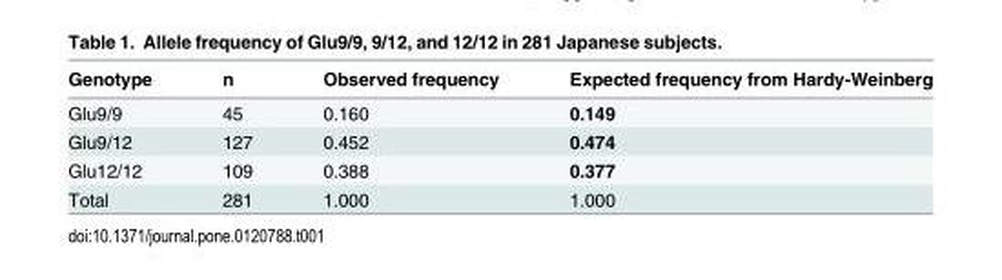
<table><thead><tr><td>Genotype</td><td>n</td><td>Observed frequency</td><td>Expected frequency from Hardy-Weinberg</td></tr></thead><tbody><tr><td>Glu9/9</td><td>45</td><td>0.160</td><td>0.149</td></tr><tr><td>Glu9/12</td><td>127</td><td>0.452</td><td>0.474</td></tr><tr><td>Glu12/12</td><td>109</td><td>0.388</td><td>0.377</td></tr><tr><td>Total</td><td>281</td><td>1.000</td><td>1.000</td></tr></tbody></table>